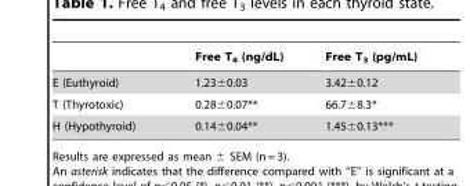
<table><thead><tr><td></td><td>Free T<sub>4</sub> (ng/dL)</td><td>Free T<sub>3</sub> (pg/mL)</td></tr></thead><tbody><tr><td>E (Euthyroid)</td><td>1.23±0.03</td><td>3.42±0.12</td></tr><tr><td>T (Thyrotoxic)</td><td>0.28±0.07**</td><td>66.7±8.3*</td></tr><tr><td>H (Hypothyroid)</td><td>0.14±0.04**</td><td>1.45±0.13***</td></tr></tbody></table>